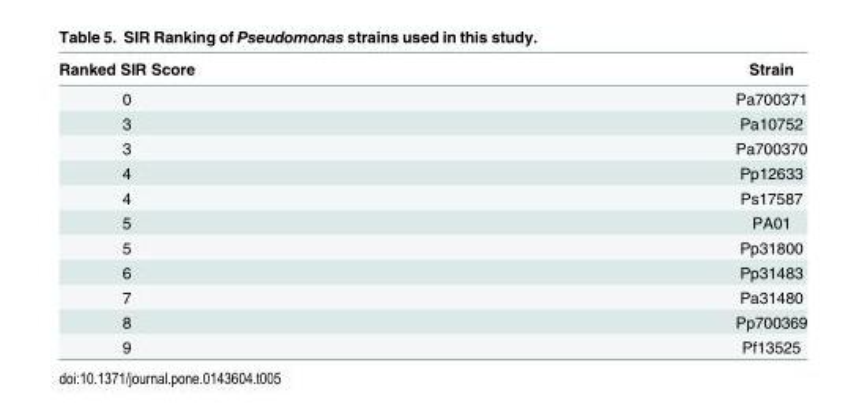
<table><thead><tr><td>Ranked SIR Score</td><td>Strain</td></tr></thead><tbody><tr><td>0</td><td>Pa700371</td></tr><tr><td>3</td><td>Pa10752</td></tr><tr><td>3</td><td>Pa700370</td></tr><tr><td>4</td><td>Pp12633</td></tr><tr><td>4</td><td>Ps17587</td></tr><tr><td>5</td><td>PA01</td></tr><tr><td>5</td><td>Pp31800</td></tr><tr><td>6</td><td>Pp31483</td></tr><tr><td>7</td><td>Pa31480</td></tr><tr><td>8</td><td>Pp700369</td></tr><tr><td>9</td><td>Pf13525</td></tr></tbody></table>